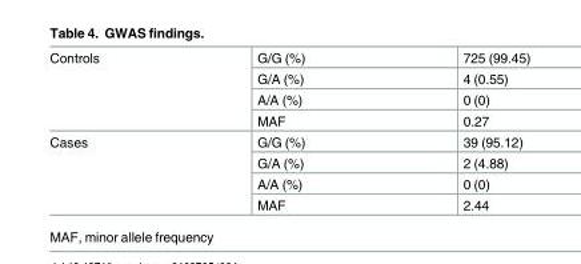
<table><tbody><tr><td rowspan="4">Controls</td><td>G/G (%)</td><td>725 (99.45)</td></tr><tr><td>G/A (%)</td><td>4 (0.55)</td></tr><tr><td>A/A (%)</td><td>0 (0)</td></tr><tr><td>MAF</td><td>0.27</td></tr><tr><td rowspan="4">Cases</td><td>G/G (%)</td><td>39 (95.12)</td></tr><tr><td>G/A (%)</td><td>2 (4.88)</td></tr><tr><td>A/A (%)</td><td>0 (0)</td></tr><tr><td>MAF</td><td>2.44</td></tr></tbody></table>